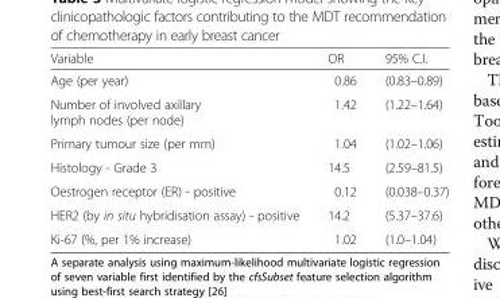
<table><thead><tr><td>Variable</td><td>OR</td><td>95% C.I.</td></tr></thead><tbody><tr><td>Age (per year)</td><td>0.86</td><td>(0.83–0.89)</td></tr><tr><td>Number of involved axillary lymph nodes (per node)</td><td>1.42</td><td>(1.22–1.64)</td></tr><tr><td>Primary tumour size (per mm)</td><td>1.04</td><td>(1.02–1.06)</td></tr><tr><td>Histology - Grade 3</td><td>14.5</td><td>(2.59–81.5)</td></tr><tr><td>Oestrogen receptor (ER) - positive</td><td>0.12</td><td>(0.038–0.37)</td></tr><tr><td>HER2 (by in situ hybridisation assay) - positive</td><td>14.2</td><td>(5.37–37.6)</td></tr><tr><td>Ki-67 (%, per 1% increase)</td><td>1.02</td><td>(1.0–1.04)</td></tr></tbody></table>